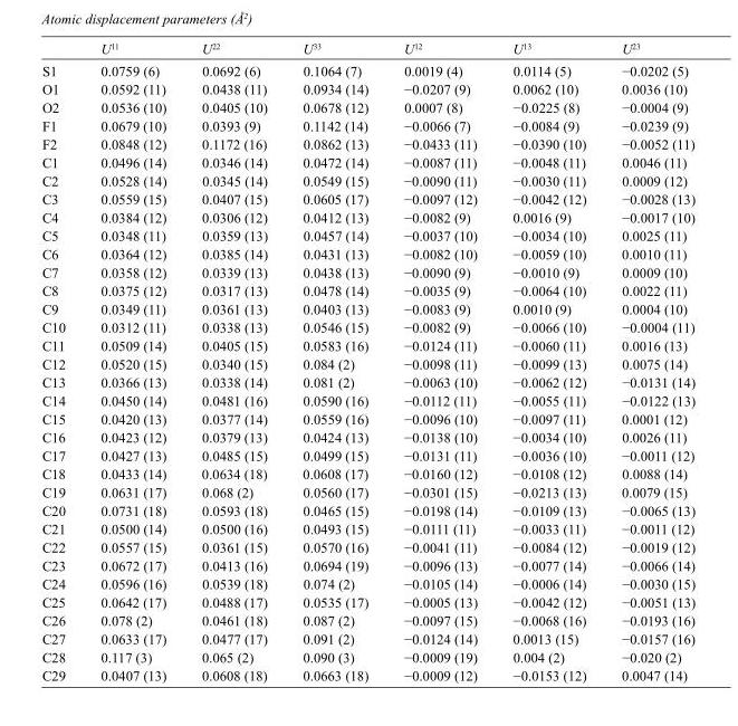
<table><thead><tr><td></td><td>U<sup>11</sup></td><td>U<sup>22</sup></td><td>U<sup>33</sup></td><td>U<sup>12</sup></td><td>U<sup>13</sup></td><td>U<sup>23</sup></td></tr></thead><tbody><tr><td>S1</td><td>0.0759 (6)</td><td>0.0692 (6)</td><td>0.1064 (7)</td><td>0.0019 (4)</td><td>0.0114 (5)</td><td>−0.0202 (5)</td></tr><tr><td>O1</td><td>0.0592 (11)</td><td>0.0438 (11)</td><td>0.0934 (14)</td><td>−0.0207 (9)</td><td>0.0062 (10)</td><td>0.0036 (10)</td></tr><tr><td>O2</td><td>0.0536 (10)</td><td>0.0405 (10)</td><td>0.0678 (12)</td><td>0.0007 (8)</td><td>−0.0225 (8)</td><td>−0.0004 (9)</td></tr><tr><td>F1</td><td>0.0679 (10)</td><td>0.0393 (9)</td><td>0.1142 (14)</td><td>−0.0066 (7)</td><td>−0.0084 (9)</td><td>−0.0239 (9)</td></tr><tr><td>F2</td><td>0.0848 (12)</td><td>0.1172 (16)</td><td>0.0862 (13)</td><td>−0.0433 (11)</td><td>−0.0390 (10)</td><td>−0.0052 (11)</td></tr><tr><td>C1</td><td>0.0496 (14)</td><td>0.0346 (14)</td><td>0.0472 (14)</td><td>−0.0087 (11)</td><td>−0.0048 (11)</td><td>0.0046 (11)</td></tr><tr><td>C2</td><td>0.0528 (14)</td><td>0.0345 (14)</td><td>0.0549 (15)</td><td>−0.0090 (11)</td><td>−0.0030 (11)</td><td>0.0009 (12)</td></tr><tr><td>C3</td><td>0.0559 (15)</td><td>0.0407 (15)</td><td>0.0605 (17)</td><td>−0.0097 (12)</td><td>−0.0042 (12)</td><td>−0.0028 (13)</td></tr><tr><td>C4</td><td>0.0384 (12)</td><td>0.0306 (12)</td><td>0.0412 (13)</td><td>−0.0082 (9)</td><td>0.0016 (9)</td><td>−0.0017 (10)</td></tr><tr><td>C5</td><td>0.0348 (11)</td><td>0.0359 (13)</td><td>0.0457 (14)</td><td>−0.0037 (10)</td><td>−0.0034 (10)</td><td>0.0025 (11)</td></tr><tr><td>C6</td><td>0.0364 (12)</td><td>0.0385 (14)</td><td>0.0431 (13)</td><td>−0.0082 (10)</td><td>−0.0059 (10)</td><td>0.0010 (11)</td></tr><tr><td>C7</td><td>0.0358 (12)</td><td>0.0339 (13)</td><td>0.0438 (13)</td><td>−0.0090 (9)</td><td>−0.0010 (9)</td><td>0.0009 (10)</td></tr><tr><td>C8</td><td>0.0375 (12)</td><td>0.0317 (13)</td><td>0.0478 (14)</td><td>−0.0035 (9)</td><td>−0.0064 (10)</td><td>0.0022 (11)</td></tr><tr><td>C9</td><td>0.0349 (11)</td><td>0.0361 (13)</td><td>0.0403 (13)</td><td>−0.0083 (9)</td><td>0.0010 (9)</td><td>0.0004 (10)</td></tr><tr><td>C10</td><td>0.0312 (11)</td><td>0.0338 (13)</td><td>0.0546 (15)</td><td>−0.0082 (9)</td><td>−0.0066 (10)</td><td>−0.0004 (11)</td></tr><tr><td>C11</td><td>0.0509 (14)</td><td>0.0405 (15)</td><td>0.0583 (16)</td><td>−0.0124 (11)</td><td>−0.0060 (11)</td><td>0.0016 (13)</td></tr><tr><td>C12</td><td>0.0520 (15)</td><td>0.0340 (15)</td><td>0.084 (2)</td><td>−0.0098 (11)</td><td>−0.0099 (13)</td><td>0.0075 (14)</td></tr><tr><td>C13</td><td>0.0366 (13)</td><td>0.0338 (14)</td><td>0.081 (2)</td><td>−0.0063 (10)</td><td>−0.0062 (12)</td><td>−0.0131 (14)</td></tr><tr><td>C14</td><td>0.0450 (14)</td><td>0.0481 (16)</td><td>0.0590 (16)</td><td>−0.0112 (11)</td><td>−0.0055 (11)</td><td>−0.0122 (13)</td></tr><tr><td>C15</td><td>0.0420 (13)</td><td>0.0377 (14)</td><td>0.0559 (16)</td><td>−0.0096 (10)</td><td>−0.0097 (11)</td><td>0.0001 (12)</td></tr><tr><td>C16</td><td>0.0423 (12)</td><td>0.0379 (13)</td><td>0.0424 (13)</td><td>−0.0138 (10)</td><td>−0.0034 (10)</td><td>0.0026 (11)</td></tr><tr><td>C17</td><td>0.0427 (13)</td><td>0.0485 (15)</td><td>0.0499 (15)</td><td>−0.0131 (11)</td><td>−0.0036 (10)</td><td>−0.0011 (12)</td></tr><tr><td>C18</td><td>0.0433 (14)</td><td>0.0634 (18)</td><td>0.0608 (17)</td><td>−0.0160 (12)</td><td>−0.0108 (12)</td><td>0.0088 (14)</td></tr><tr><td>C19</td><td>0.0631 (17)</td><td>0.068 (2)</td><td>0.0560 (17)</td><td>−0.0301 (15)</td><td>−0.0213 (13)</td><td>0.0079 (15)</td></tr><tr><td>C20</td><td>0.0731 (18)</td><td>0.0593 (18)</td><td>0.0465 (15)</td><td>−0.0198 (14)</td><td>−0.0109 (13)</td><td>−0.0065 (13)</td></tr><tr><td>C21</td><td>0.0500 (14)</td><td>0.0500 (16)</td><td>0.0493 (15)</td><td>−0.0111 (11)</td><td>−0.0033 (11)</td><td>−0.0011 (12)</td></tr><tr><td>C22</td><td>0.0557 (15)</td><td>0.0361 (15)</td><td>0.0570 (16)</td><td>−0.0041 (11)</td><td>−0.0084 (12)</td><td>−0.0019 (12)</td></tr><tr><td>C23</td><td>0.0672 (17)</td><td>0.0413 (16)</td><td>0.0694 (19)</td><td>−0.0096 (13)</td><td>−0.0077 (14)</td><td>−0.0066 (14)</td></tr><tr><td>C24</td><td>0.0596 (16)</td><td>0.0539 (18)</td><td>0.074 (2)</td><td>−0.0105 (14)</td><td>−0.0006 (14)</td><td>−0.0030 (15)</td></tr><tr><td>C25</td><td>0.0642 (17)</td><td>0.0488 (17)</td><td>0.0535 (17)</td><td>−0.0005 (13)</td><td>−0.0042 (12)</td><td>−0.0051 (13)</td></tr><tr><td>C26</td><td>0.078 (2)</td><td>0.0461 (18)</td><td>0.087 (2)</td><td>−0.0097 (15)</td><td>−0.0068 (16)</td><td>−0.0193 (16)</td></tr><tr><td>C27</td><td>0.0633 (17)</td><td>0.0477 (17)</td><td>0.091 (2)</td><td>−0.0124 (14)</td><td>0.0013 (15)</td><td>−0.0157 (16)</td></tr><tr><td>C28</td><td>0.117 (3)</td><td>0.065 (2)</td><td>0.090 (3)</td><td>−0.0009 (19)</td><td>0.004 (2)</td><td>−0.020 (2)</td></tr><tr><td>C29</td><td>0.0407 (13)</td><td>0.0608 (18)</td><td>0.0663 (18)</td><td>−0.0009 (12)</td><td>−0.0153 (12)</td><td>0.0047 (14)</td></tr></tbody></table>